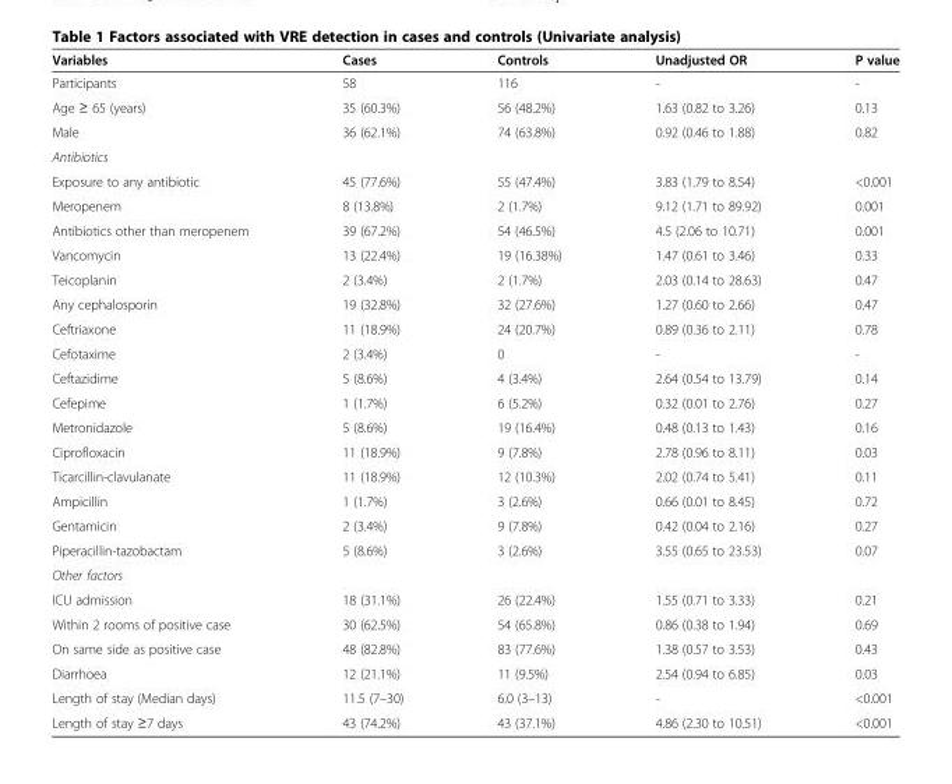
<table><thead><tr><td>Variables</td><td>Cases</td><td>Controls</td><td>Unadjusted OR</td><td>P value</td></tr></thead><tbody><tr><td>Participants</td><td>58</td><td>116</td><td>-</td><td>-</td></tr><tr><td>Age ≥ 65 (years)</td><td>35 (60.3%)</td><td>56 (48.2%)</td><td>1.63 (0.82 to 3.26)</td><td>0.13</td></tr><tr><td>Male</td><td>36 (62.1%)</td><td>74 (63.8%)</td><td>0.92 (0.46 to 1.88)</td><td>0.82</td></tr><tr><td colspan="5">Antibiotics</td></tr><tr><td>Exposure to any antibiotic</td><td>45 (77.6%)</td><td>55 (47.4%)</td><td>3.83 (1.79 to 8.54)</td><td>&lt;0.001</td></tr><tr><td>Meropenem</td><td>8 (13.8%)</td><td>2 (1.7%)</td><td>9.12 (1.71 to 89.92)</td><td>0.001</td></tr><tr><td>Antibiotics other than meropenem</td><td>39 (67.2%)</td><td>54 (46.5%)</td><td>4.5 (2.06 to 10.71)</td><td>0.001</td></tr><tr><td>Vancomycin</td><td>13 (22.4%)</td><td>19 (16.38%)</td><td>1.47 (0.61 to 3.46)</td><td>0.33</td></tr><tr><td>Teicoplanin</td><td>2 (3.4%)</td><td>2 (1.7%)</td><td>2.03 (0.14 to 28.63)</td><td>0.47</td></tr><tr><td>Any cephalosporin</td><td>19 (32.8%)</td><td>32 (27.6%)</td><td>1.27 (0.60 to 2.66)</td><td>0.47</td></tr><tr><td>Ceftriaxone</td><td>11 (18.9%)</td><td>24 (20.7%)</td><td>0.89 (0.36 to 2.11)</td><td>0.78</td></tr><tr><td>Cefotaxime</td><td>2 (3.4%)</td><td>0</td><td>-</td><td>-</td></tr><tr><td>Ceftazidime</td><td>5 (8.6%)</td><td>4 (3.4%)</td><td>2.64 (0.54 to 13.79)</td><td>0.14</td></tr><tr><td>Cefepime</td><td>1 (1.7%)</td><td>6 (5.2%)</td><td>0.32 (0.01 to 2.76)</td><td>0.27</td></tr><tr><td>Metronidazole</td><td>5 (8.6%)</td><td>19 (16.4%)</td><td>0.48 (0.13 to 1.43)</td><td>0.16</td></tr><tr><td>Ciprofloxacin</td><td>11 (18.9%)</td><td>9 (7.8%)</td><td>2.78 (0.96 to 8.11)</td><td>0.03</td></tr><tr><td>Ticarcillin-clavulanate</td><td>11 (18.9%)</td><td>12 (10.3%)</td><td>2.02 (0.74 to 5.41)</td><td>0.11</td></tr><tr><td>Ampicillin</td><td>1 (1.7%)</td><td>3 (2.6%)</td><td>0.66 (0.01 to 8.45)</td><td>0.72</td></tr><tr><td>Gentamicin</td><td>2 (3.4%)</td><td>9 (7.8%)</td><td>0.42 (0.04 to 2.16)</td><td>0.27</td></tr><tr><td>Piperacillin-tazobactam</td><td>5 (8.6%)</td><td>3 (2.6%)</td><td>3.55 (0.65 to 23.53)</td><td>0.07</td></tr><tr><td colspan="5">Other factors</td></tr><tr><td>ICU admission</td><td>18 (31.1%)</td><td>26 (22.4%)</td><td>1.55 (0.71 to 3.33)</td><td>0.21</td></tr><tr><td>Within 2 rooms of positive case</td><td>30 (62.5%)</td><td>54 (65.8%)</td><td>0.86 (0.38 to 1.94)</td><td>0.69</td></tr><tr><td>On same side as positive case</td><td>48 (82.8%)</td><td>83 (77.6%)</td><td>1.38 (0.57 to 3.53)</td><td>0.43</td></tr><tr><td>Diarrhoea</td><td>12 (21.1%)</td><td>11 (9.5%)</td><td>2.54 (0.94 to 6.85)</td><td>0.03</td></tr><tr><td>Length of stay (Median days)</td><td>11.5 (7–30)</td><td>6.0 (3–13)</td><td>-</td><td>&lt;0.001</td></tr><tr><td>Length of stay ≥7 days</td><td>43 (74.2%)</td><td>43 (37.1%)</td><td>4.86 (2.30 to 10.51)</td><td>&lt;0.001</td></tr></tbody></table>